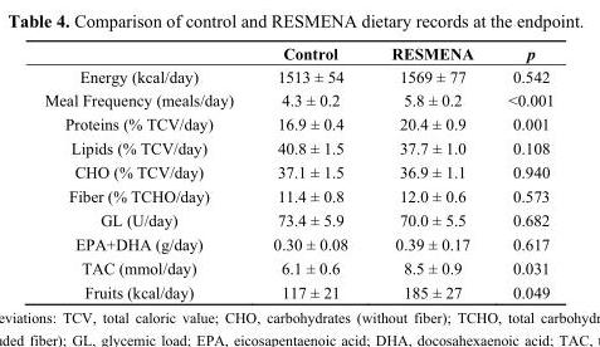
<table><thead><tr><td></td><td>Control</td><td>RESMENA</td><td>p</td></tr></thead><tbody><tr><td>Energy (kcal/day)</td><td>1513 ± 54</td><td>1569 ± 77</td><td>0.542</td></tr><tr><td>Meal Frequency (meals/day)</td><td>4.3 ± 0.2</td><td>5.8 ± 0.2</td><td>&lt;0.001</td></tr><tr><td>Proteins (% TCV/day)</td><td>16.9 ± 0.4</td><td>20.4 ± 0.9</td><td>0.001</td></tr><tr><td>Lipids (% TCV/day)</td><td>40.8 ± 1.5</td><td>37.7 ± 1.0</td><td>0.108</td></tr><tr><td>CHO (% TCV/day)</td><td>37.1 ± 1.5</td><td>36.9 ± 1.1</td><td>0.940</td></tr><tr><td>Fiber (% TCHO/day)</td><td>11.4 ± 0.8</td><td>12.0 ± 0.6</td><td>0.573</td></tr><tr><td>GL (U/day)</td><td>73.4 ± 5.9</td><td>70.0 ± 5.5</td><td>0.682</td></tr><tr><td>EPA+DHA (g/day)</td><td>0.30 ± 0.08</td><td>0.39 ± 0.17</td><td>0.617</td></tr><tr><td>TAC (mmol/day)</td><td>6.1 ± 0.6</td><td>8.5 ± 0.9</td><td>0.031</td></tr><tr><td>Fruits (kcal/day)</td><td>117 ± 21</td><td>185 ± 27</td><td>0.049</td></tr></tbody></table>